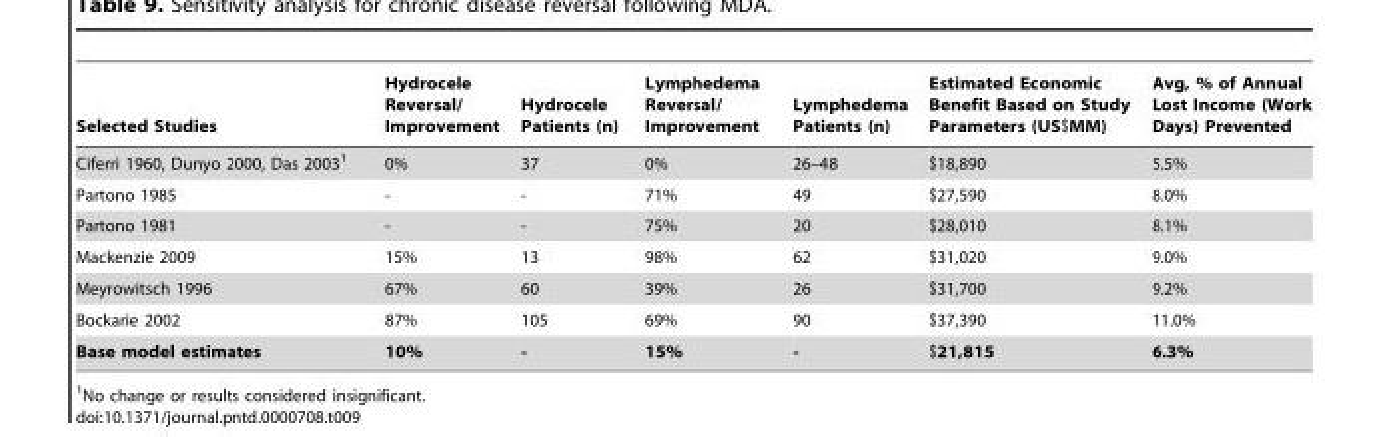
<table><thead><tr><td>Selected Studies</td><td>Hydrocele Reversal/ Improvement</td><td>Hydrocele Patients (n)</td><td>Lymphedema Reversal/ Improvement</td><td>Lymphedema Patients (n)</td><td>Estimated Economic Benefit Based on Study Parameters (US$MM)</td><td>Avg, % of Annual Lost Income (Work Days) Prevented</td></tr></thead><tbody><tr><td>Ciferri 1960, Dunyo 2000, Das 2003<sup>1</sup></td><td>0%</td><td>37</td><td>0%</td><td>26–48</td><td>$18,890</td><td>5.5%</td></tr><tr><td>Partono 1985</td><td>-</td><td>-</td><td>71%</td><td>49</td><td>$27,590</td><td>8.0%</td></tr><tr><td>Partono 1981</td><td>-</td><td>-</td><td>75%</td><td>20</td><td>$28,010</td><td>8.1%</td></tr><tr><td>Mackenzie 2009</td><td>15%</td><td>13</td><td>98%</td><td>62</td><td>$31,020</td><td>9.0%</td></tr><tr><td>Meyrowitsch 1996</td><td>67%</td><td>60</td><td>39%</td><td>26</td><td>$31,700</td><td>9.2%</td></tr><tr><td>Bockarie 2002</td><td>87%</td><td>105</td><td>69%</td><td>90</td><td>$37,390</td><td>11.0%</td></tr><tr><td>Base model estimates</td><td>10%</td><td>-</td><td>15%</td><td>-</td><td>$21,815</td><td>6.3%</td></tr></tbody></table>